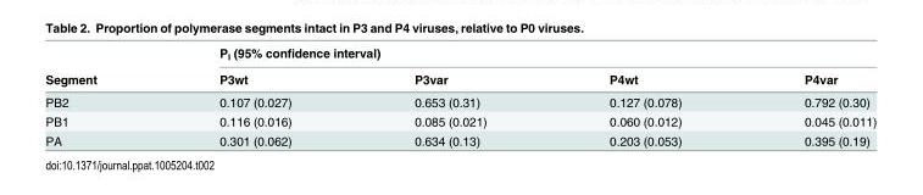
<table><thead><tr><td rowspan="2">Segment</td><td colspan="4">P<sub>I</sub> (95% confidence interval)</td></tr><tr><td>P3wt</td><td>P3var</td><td>P4wt</td><td>P4var</td></tr></thead><tbody><tr><td>PB2</td><td>0.107 (0.027)</td><td>0.653 (0.31)</td><td>0.127 (0.078)</td><td>0.792 (0.30)</td></tr><tr><td>PB1</td><td>0.116 (0.016)</td><td>0.085 (0.021)</td><td>0.060 (0.012)</td><td>0.045 (0.011)</td></tr><tr><td>PA</td><td>0.301 (0.062)</td><td>0.634 (0.13)</td><td>0.203 (0.053)</td><td>0.395 (0.19)</td></tr></tbody></table>